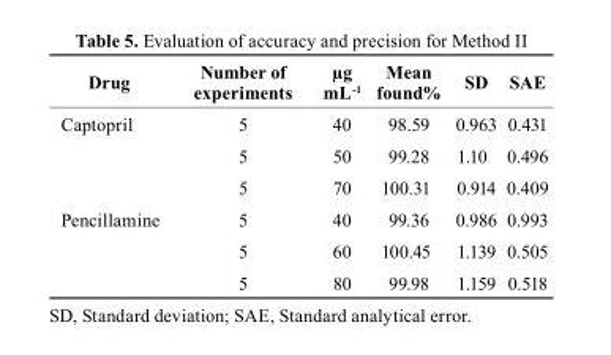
<table><thead><tr><td>Drug</td><td>Number of experiments</td><td>µg mL<sup>-1</sup></td><td>Mean found%</td><td>sD</td><td>sAE</td></tr></thead><tbody><tr><td rowspan="3">Captopril</td><td>5</td><td>40</td><td>98.59</td><td>0.963</td><td>0.431</td></tr><tr><td>5</td><td>50</td><td>99.28</td><td>1.10</td><td>0.496</td></tr><tr><td>5</td><td>70</td><td>100.31</td><td>0.914</td><td>0.409</td></tr><tr><td rowspan="3">Pencillamine</td><td>5</td><td>40</td><td>99.36</td><td>0.986</td><td>0.993</td></tr><tr><td>5</td><td>60</td><td>100.45</td><td>1.139</td><td>0.505</td></tr><tr><td>5</td><td>80</td><td>99.98</td><td>1.159</td><td>0.518</td></tr></tbody></table>